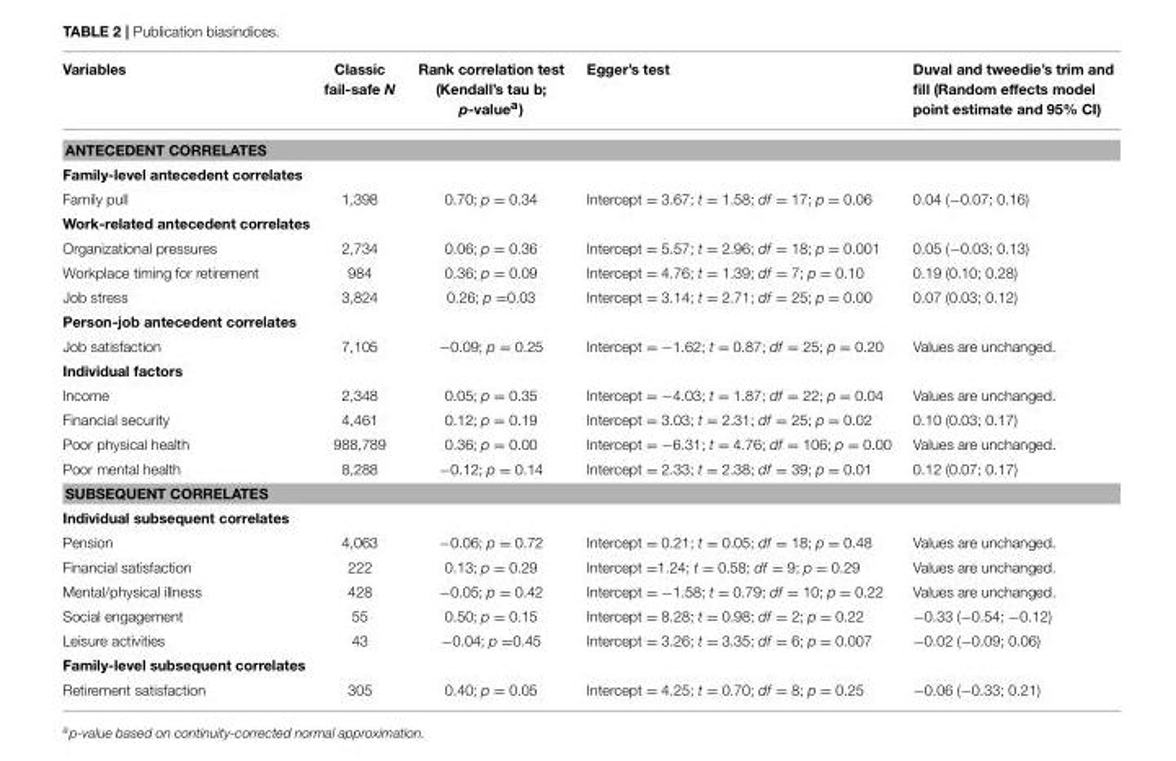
<table><thead><tr><td>Variables</td><td>Classic fail-safe N</td><td>Rank correlation test (Kendall’s tau b; p-value<sup>a</sup>)</td><td>Egger’s test</td><td>Duval and tweedie’s trim and fill (Random effects model point estimate and 95% CI)</td></tr></thead><tbody><tr><td colspan="5">ANTECEDENT CORRELATES</td></tr><tr><td colspan="5">Family-level antecedent correlates</td></tr><tr><td>Family pull</td><td>1,398</td><td>0.70; p = 0.34</td><td>Intercept = 3.67; t = 1.58; df = 17; p = 0.06</td><td>0.04 (−0.07; 0.16)</td></tr><tr><td colspan="5">Work-related antecedent correlates</td></tr><tr><td>Organizational pressures</td><td>2,734</td><td>0.06; p = 0.36</td><td>Intercept = 5.57; t = 2.96; df = 18; p = 0.001</td><td>0.05 (−0.03; 0.13)</td></tr><tr><td>Workplace timing for retirement</td><td>984</td><td>0.36; p = 0.09</td><td>Intercept = 4.76; t = 1.39; df = 7; p = 0.10</td><td>0.19 (0.10; 0.28)</td></tr><tr><td>Job stress</td><td>3,824</td><td>0.26; p =0.03</td><td>Intercept = 3.14; t = 2.71; df = 25; p = 0.00</td><td>0.07 (0.03; 0.12)</td></tr><tr><td colspan="5">Person-job antecedent correlates</td></tr><tr><td>Job satisfaction</td><td>7,105</td><td>−0.09; p = 0.25</td><td>Intercept = −1.62; t = 0.87; df = 25; p = 0.20</td><td>Values are unchanged.</td></tr><tr><td colspan="5">Individual factors</td></tr><tr><td>Income</td><td>2,348</td><td>0.05; p = 0.35</td><td>Intercept = −4.03; t = 1.87; df = 22; p = 0.04</td><td>Values are unchanged.</td></tr><tr><td>Financial security</td><td>4,461</td><td>0.12; p = 0.19</td><td>Intercept = 3.03; t = 2.31; df = 25; p = 0.02</td><td>0.10 (0.03; 0.17)</td></tr><tr><td>Poor physical health</td><td>988,789</td><td>0.36; p = 0.00</td><td>Intercept = −6.31; t = 4.76; df = 106; p = 0.00</td><td>Values are unchanged.</td></tr><tr><td>Poor mental health</td><td>8,288</td><td>−0.12; p = 0.14</td><td>Intercept = 2.33; t = 2.38; df = 39; p = 0.01</td><td>0.12 (0.07; 0.17)</td></tr><tr><td colspan="5">SUBSEQUENT CORRELATES</td></tr><tr><td colspan="5">Individual subsequent correlates</td></tr><tr><td>Pension</td><td>4,063</td><td>−0.06; p = 0.72</td><td>Intercept = 0.21; t = 0.05; df = 18; p = 0.48</td><td>Values are unchanged.</td></tr><tr><td>Financial satisfaction</td><td>222</td><td>0.13; p = 0.29</td><td>Intercept =1.24; t = 0.58; df = 9; p = 0.29</td><td>Values are unchanged.</td></tr><tr><td>Mental/physical illness</td><td>428</td><td>−0.05; p = 0.42</td><td>Intercept = −1.58; t = 0.79; df = 10; p = 0.22</td><td>Values are unchanged.</td></tr><tr><td>Social engagement</td><td>55</td><td>0.50; p = 0.15</td><td>Intercept = 8.28; t = 0.98; df = 2; p = 0.22</td><td>−0.33 (−0.54; −0.12)</td></tr><tr><td>Leisure activities</td><td>43</td><td>−0.04; p =0.45</td><td>Intercept = 3.26; t = 3.35; df = 6; p = 0.007</td><td>−0.02 (−0.09; 0.06)</td></tr><tr><td colspan="5">Family-level subsequent correlates</td></tr><tr><td>Retirement satisfaction</td><td>305</td><td>0.40; p = 0.05</td><td>Intercept = 4.25; t = 0.70; df = 8; p = 0.25</td><td>−0.06 (−0.33; 0.21)</td></tr></tbody></table>